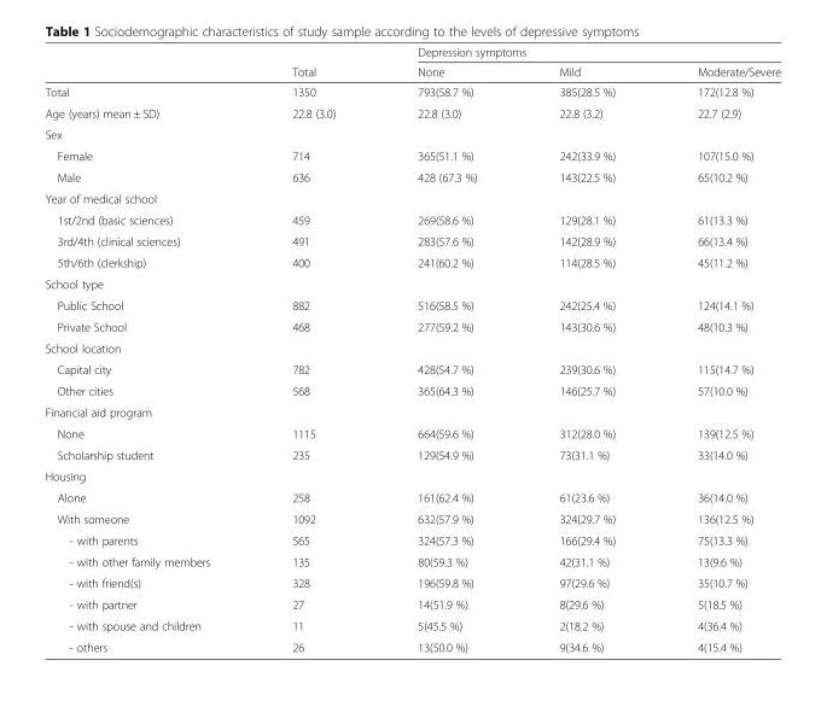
<table><thead><tr><td rowspan="2"></td><td rowspan="2">Total</td><td colspan="3">Depression symptoms</td></tr><tr><td>None</td><td>Mild</td><td>Moderate/Severe</td></tr></thead><tbody><tr><td>Total</td><td>1350</td><td>793(58.7 %)</td><td>385(28.5 %)</td><td>172(12.8 %)</td></tr><tr><td>Age (years) mean ± SD)</td><td>22.8 (3.0)</td><td>22.8 (3.0)</td><td>22.8 (3.2)</td><td>22.7 (2.9)</td></tr><tr><td colspan="5">Sex</td></tr><tr><td>Female</td><td>714</td><td>365(51.1 %)</td><td>242(33.9 %)</td><td>107(15.0 %)</td></tr><tr><td>Male</td><td>636</td><td>428 (67.3 %)</td><td>143(22.5 %)</td><td>65(10.2 %)</td></tr><tr><td colspan="5">Year of medical school</td></tr><tr><td>1st/2nd (basic sciences)</td><td>459</td><td>269(58.6 %)</td><td>129(28.1 %)</td><td>61(13.3 %)</td></tr><tr><td>3rd/4th (clinical sciences)</td><td>491</td><td>283(57.6 %)</td><td>142(28.9 %)</td><td>66(13.4 %)</td></tr><tr><td>5th/6th (clerkship)</td><td>400</td><td>241(60.2 %)</td><td>114(28.5 %)</td><td>45(11.2 %)</td></tr><tr><td colspan="5">School type</td></tr><tr><td>Public School</td><td>882</td><td>516(58.5 %)</td><td>242(25.4 %)</td><td>124(14.1 %)</td></tr><tr><td>Private School</td><td>468</td><td>277(59.2 %)</td><td>143(30.6 %)</td><td>48(10.3 %)</td></tr><tr><td colspan="5">School location</td></tr><tr><td>Capital city</td><td>782</td><td>428(54.7 %)</td><td>239(30.6 %)</td><td>115(14.7 %)</td></tr><tr><td>Other cities</td><td>568</td><td>365(64.3 %)</td><td>146(25.7 %)</td><td>57(10.0 %)</td></tr><tr><td colspan="5">Financial aid program</td></tr><tr><td>None</td><td>1115</td><td>664(59.6 %)</td><td>312(28.0 %)</td><td>139(12.5 %)</td></tr><tr><td>Scholarship student</td><td>235</td><td>129(54.9 %)</td><td>73(31.1 %)</td><td>33(14.0 %)</td></tr><tr><td colspan="5">Housing</td></tr><tr><td>Alone</td><td>258</td><td>161(62.4 %)</td><td>61(23.6 %)</td><td>36(14.0 %)</td></tr><tr><td>With someone</td><td>1092</td><td>632(57.9 %)</td><td>324(29.7 %)</td><td>136(12.5 %)</td></tr><tr><td>- with parents</td><td>565</td><td>324(57.3 %)</td><td>166(29.4 %)</td><td>75(13.3 %)</td></tr><tr><td>- with other family members</td><td>135</td><td>80(59.3 %)</td><td>42(31.1 %)</td><td>13(9.6 %)</td></tr><tr><td>- with friend(s)</td><td>328</td><td>196(59.8 %)</td><td>97(29.6 %)</td><td>35(10.7 %)</td></tr><tr><td>- with partner</td><td>27</td><td>14(51.9 %)</td><td>8(29.6 %)</td><td>5(18.5 %)</td></tr><tr><td>- with spouse and children</td><td>11</td><td>5(45.5 %)</td><td>2(18.2 %)</td><td>4(36.4 %)</td></tr><tr><td>- others</td><td>26</td><td>13(50.0 %)</td><td>9(34.6 %)</td><td>4(15.4 %)</td></tr></tbody></table>